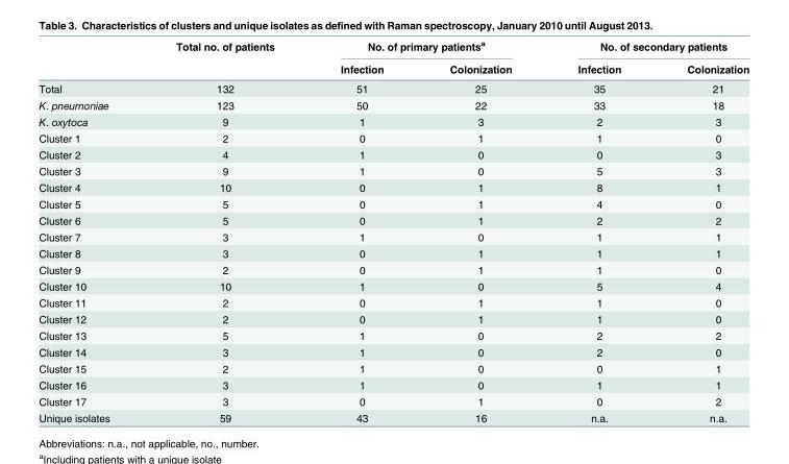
<table><thead><tr><td rowspan="2"></td><td rowspan="2">Total no. of patients</td><td colspan="2">No. of primary patients<sup>a</sup></td><td colspan="2">No. of secondary patients</td></tr><tr><td>Infection</td><td>Colonization</td><td>Infection</td><td>Colonization</td></tr></thead><tbody><tr><td>Total</td><td>132</td><td>51</td><td>25</td><td>35</td><td>21</td></tr><tr><td>K. pneumoniae</td><td>123</td><td>50</td><td>22</td><td>33</td><td>18</td></tr><tr><td>K. oxytoca</td><td>9</td><td>1</td><td>3</td><td>2</td><td>3</td></tr><tr><td>Cluster 1</td><td>2</td><td>0</td><td>1</td><td>1</td><td>0</td></tr><tr><td>Cluster 2</td><td>4</td><td>1</td><td>0</td><td>0</td><td>3</td></tr><tr><td>Cluster 3</td><td>9</td><td>1</td><td>0</td><td>5</td><td>3</td></tr><tr><td>Cluster 4</td><td>10</td><td>0</td><td>1</td><td>8</td><td>1</td></tr><tr><td>Cluster 5</td><td>5</td><td>0</td><td>1</td><td>4</td><td>0</td></tr><tr><td>Cluster 6</td><td>5</td><td>0</td><td>1</td><td>2</td><td>2</td></tr><tr><td>Cluster 7</td><td>3</td><td>1</td><td>0</td><td>1</td><td>1</td></tr><tr><td>Cluster 8</td><td>3</td><td>0</td><td>1</td><td>1</td><td>1</td></tr><tr><td>Cluster 9</td><td>2</td><td>0</td><td>1</td><td>1</td><td>0</td></tr><tr><td>Cluster 10</td><td>10</td><td>1</td><td>0</td><td>5</td><td>4</td></tr><tr><td>Cluster 11</td><td>2</td><td>0</td><td>1</td><td>1</td><td>0</td></tr><tr><td>Cluster 12</td><td>2</td><td>0</td><td>1</td><td>1</td><td>0</td></tr><tr><td>Cluster 13</td><td>5</td><td>1</td><td>0</td><td>2</td><td>2</td></tr><tr><td>Cluster 14</td><td>3</td><td>1</td><td>0</td><td>2</td><td>0</td></tr><tr><td>Cluster 15</td><td>2</td><td>1</td><td>0</td><td>0</td><td>1</td></tr><tr><td>Cluster 16</td><td>3</td><td>1</td><td>0</td><td>1</td><td>1</td></tr><tr><td>Cluster 17</td><td>3</td><td>0</td><td>1</td><td>0</td><td>2</td></tr><tr><td>Unique isolates</td><td>59</td><td>43</td><td>16</td><td>n.a.</td><td>n.a.</td></tr></tbody></table>